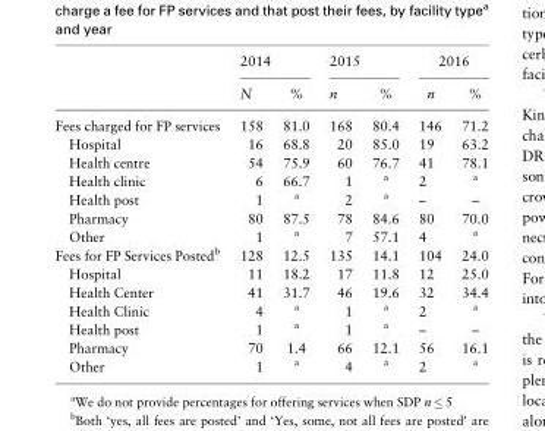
<table><thead><tr><td rowspan="2"></td><td colspan="2">2014</td><td colspan="2">2015</td><td colspan="2">2016</td></tr><tr><td>N</td><td>%</td><td>n</td><td>%</td><td>n</td><td>%</td></tr></thead><tbody><tr><td>Fees charged for FP services</td><td>158</td><td>81.0</td><td>168</td><td>80.4</td><td>146</td><td>71.2</td></tr><tr><td>Hospital</td><td>16</td><td>68.8</td><td>20</td><td>85.0</td><td>19</td><td>63.2</td></tr><tr><td>Health centre</td><td>54</td><td>75.9</td><td>60</td><td>76.7</td><td>41</td><td>78.1</td></tr><tr><td>Health clinic</td><td>6</td><td>66.7</td><td>1</td><td><sup>a</sup></td><td>2</td><td><sup>a</sup></td></tr><tr><td>Health post</td><td>1</td><td><sup>a</sup></td><td>2</td><td><sup>a</sup></td><td>–</td><td>–</td></tr><tr><td>Pharmacy</td><td>80</td><td>87.5</td><td>78</td><td>84.6</td><td>80</td><td>70.0</td></tr><tr><td>Other</td><td>1</td><td><sup>a</sup></td><td>7</td><td>57.1</td><td>4</td><td><sup>a</sup></td></tr><tr><td>Fees for FP Services Posted<sup>b</sup></td><td>128</td><td>12.5</td><td>135</td><td>14.1</td><td>104</td><td>24.0</td></tr><tr><td>Hospital</td><td>11</td><td>18.2</td><td>17</td><td>11.8</td><td>12</td><td>25.0</td></tr><tr><td>Health Center</td><td>41</td><td>31.7</td><td>46</td><td>19.6</td><td>32</td><td>34.4</td></tr><tr><td>Health Clinic</td><td>4</td><td><sup>a</sup></td><td>1</td><td><sup>a</sup></td><td>2</td><td><sup>a</sup></td></tr><tr><td>Health post</td><td>1</td><td><sup>a</sup></td><td>1</td><td><sup>a</sup></td><td>–</td><td>–</td></tr><tr><td>Pharmacy</td><td>70</td><td>1.4</td><td>66</td><td>12.1</td><td>56</td><td>16.1</td></tr><tr><td>Other</td><td>1</td><td><sup>a</sup></td><td>4</td><td><sup>a</sup></td><td>2</td><td><sup>a</sup></td></tr></tbody></table>